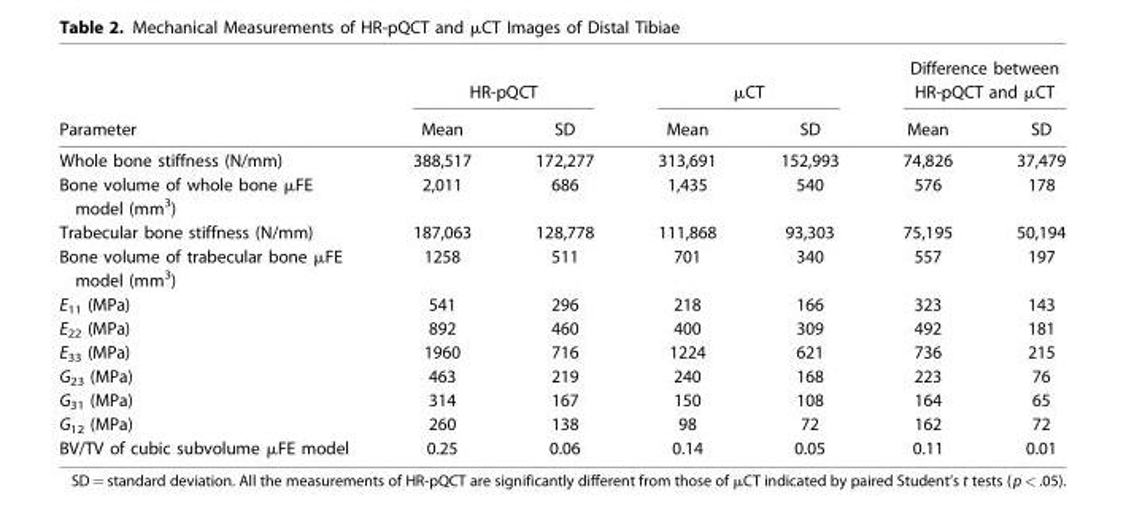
<table><thead><tr><td rowspan="2">Parameter</td><td colspan="2">HR-pQCT</td><td colspan="2">µCT</td><td colspan="2">Difference between HR-pQCT and µCT</td></tr><tr><td>Mean</td><td>SD</td><td>Mean</td><td>SD</td><td>Mean</td><td>SD</td></tr></thead><tbody><tr><td>Whole bone stiffness (N/mm)</td><td>388,517</td><td>172,277</td><td>313,691</td><td>152,993</td><td>74,826</td><td>37,479</td></tr><tr><td>Bone volume of whole bone µFE model (mm<sup>3</sup>)</td><td>2,011</td><td>686</td><td>1,435</td><td>540</td><td>576</td><td>178</td></tr><tr><td>Trabecular bone stiffness (N/mm)</td><td>187,063</td><td>128,778</td><td>111,868</td><td>93,303</td><td>75,195</td><td>50,194</td></tr><tr><td>Bone volume of trabecular bone µFE model (mm<sup>3</sup>)</td><td>1258</td><td>511</td><td>701</td><td>340</td><td>557</td><td>197</td></tr><tr><td>E<sub>11</sub> (MPa)</td><td>541</td><td>296</td><td>218</td><td>166</td><td>323</td><td>143</td></tr><tr><td>E<sub>22</sub> (MPa)</td><td>892</td><td>460</td><td>400</td><td>309</td><td>492</td><td>181</td></tr><tr><td>E<sub>33</sub> (MPa)</td><td>1960</td><td>716</td><td>1224</td><td>621</td><td>736</td><td>215</td></tr><tr><td>G<sub>23</sub> (MPa)</td><td>463</td><td>219</td><td>240</td><td>168</td><td>223</td><td>76</td></tr><tr><td>G<sub>31</sub> (MPa)</td><td>314</td><td>167</td><td>150</td><td>108</td><td>164</td><td>65</td></tr><tr><td>G<sub>12</sub> (MPa)</td><td>260</td><td>138</td><td>98</td><td>72</td><td>162</td><td>72</td></tr><tr><td>BV/TV of cubic subvolume µFE model</td><td>0.25</td><td>0.06</td><td>0.14</td><td>0.05</td><td>0.11</td><td>0.01</td></tr></tbody></table>